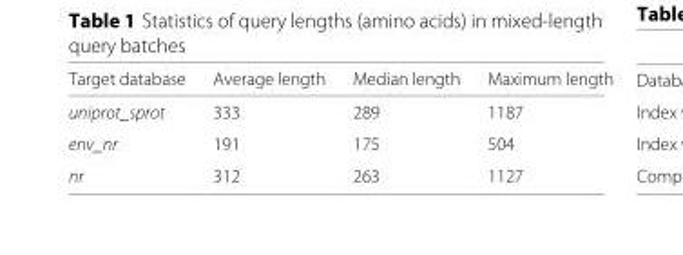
<table><thead><tr><td>Target database</td><td>Average length</td><td>Median length</td><td>Maximum length</td></tr></thead><tbody><tr><td>uniprot_sprot</td><td>333</td><td>289</td><td>1187</td></tr><tr><td>env_nr</td><td>191</td><td>175</td><td>504</td></tr><tr><td>nr</td><td>312</td><td>263</td><td>1127</td></tr></tbody></table>